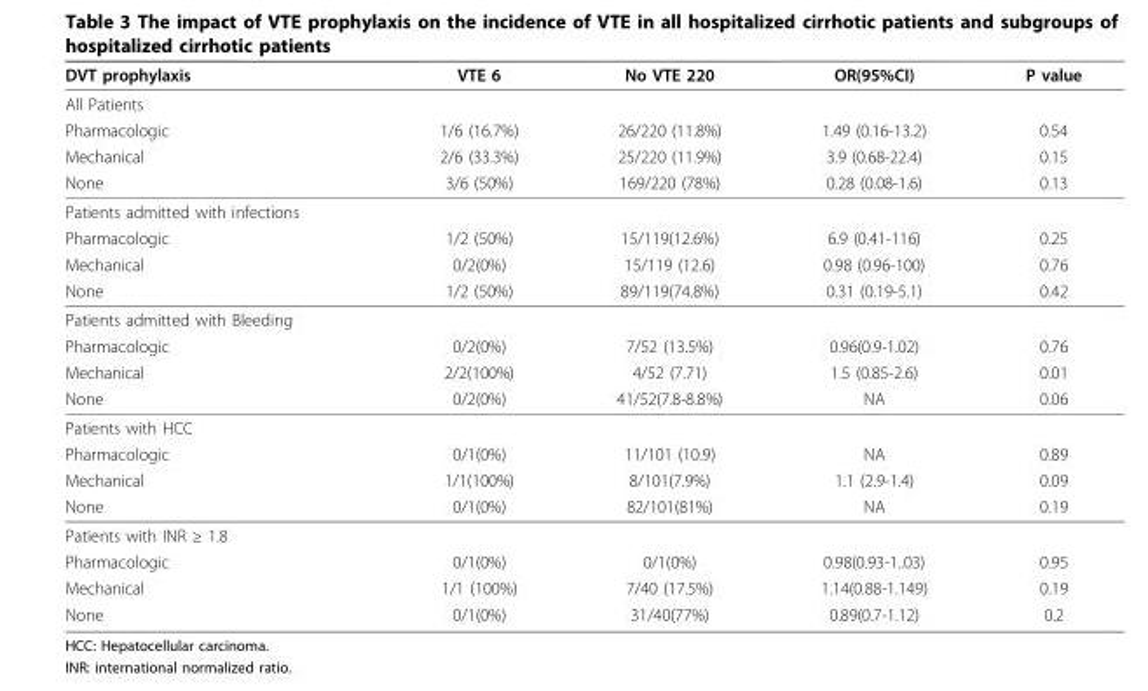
<table><thead><tr><td>DVT prophylaxis</td><td>VTE 6</td><td>No VTE 220</td><td>OR(95%CI)</td><td>P value</td></tr></thead><tbody><tr><td colspan="5">All Patients</td></tr><tr><td>Pharmacologic</td><td>1/6 (16.7%)</td><td>26/220 (11.8%)</td><td>1.49 (0.16-13.2)</td><td>0.54</td></tr><tr><td>Mechanical</td><td>2/6 (33.3%)</td><td>25/220 (11.9%)</td><td>3.9 (0.68-22.4)</td><td>0.15</td></tr><tr><td>None</td><td>3/6 (50%)</td><td>169/220 (78%)</td><td>0.28 (0.08-1.6)</td><td>0.13</td></tr><tr><td colspan="5">Patients admitted with infections</td></tr><tr><td>Pharmacologic</td><td>1/2 (50%)</td><td>15/119(12.6%)</td><td>6.9 (0.41-116)</td><td>0.25</td></tr><tr><td>Mechanical</td><td>0/2(0%)</td><td>15/119 (12.6)</td><td>0.98 (0.96-100)</td><td>0.76</td></tr><tr><td>None</td><td>1/2 (50%)</td><td>89/119(74.8%)</td><td>0.31 (0.19-5.1)</td><td>0.42</td></tr><tr><td colspan="5">Patients admitted with Bleeding</td></tr><tr><td>Pharmacologic</td><td>0/2(0%)</td><td>7/52 (13.5%)</td><td>0.96(0.9-1.02)</td><td>0.76</td></tr><tr><td>Mechanical</td><td>2/2(100%)</td><td>4/52 (7.71)</td><td>1.5 (0.85-2.6)</td><td>0.01</td></tr><tr><td>None</td><td>0/2(0%)</td><td>41/52(7.8-8.8%)</td><td>NA</td><td>0.06</td></tr><tr><td colspan="5">Patients with HCC</td></tr><tr><td>Pharmacologic</td><td>0/1(0%)</td><td>11/101 (10.9)</td><td>NA</td><td>0.89</td></tr><tr><td>Mechanical</td><td>1/1(100%)</td><td>8/101(7.9%)</td><td>1.1 (2.9-1.4)</td><td>0.09</td></tr><tr><td>None</td><td>0/1(0%)</td><td>82/101(81%)</td><td>NA</td><td>0.19</td></tr><tr><td colspan="5">Patients with INR ≥ 1.8</td></tr><tr><td>Pharmacologic</td><td>0/1(0%)</td><td>0/1(0%)</td><td>0.98(0.93-1..03)</td><td>0.95</td></tr><tr><td>Mechanical</td><td>1/1 (100%)</td><td>7/40 (17.5%)</td><td>1.14(0.88-1.149)</td><td>0.19</td></tr><tr><td>None</td><td>0/1(0%)</td><td>31/40(77%)</td><td>0.89(0.7-1.12)</td><td>0.2</td></tr></tbody></table>